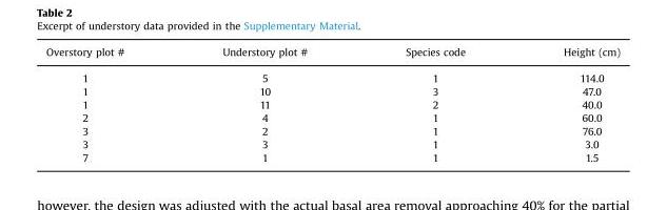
<table><thead><tr><td>Overstory plot #</td><td>Understory plot #</td><td>Species code</td><td>Height (cm)</td></tr></thead><tbody><tr><td>1</td><td>5</td><td>1</td><td>114.0</td></tr><tr><td>1</td><td>10</td><td>3</td><td>47.0</td></tr><tr><td>1</td><td>11</td><td>2</td><td>40.0</td></tr><tr><td>2</td><td>4</td><td>1</td><td>60.0</td></tr><tr><td>3</td><td>2</td><td>1</td><td>76.0</td></tr><tr><td>3</td><td>3</td><td>1</td><td>3.0</td></tr><tr><td>7</td><td>1</td><td>1</td><td>1.5</td></tr></tbody></table>